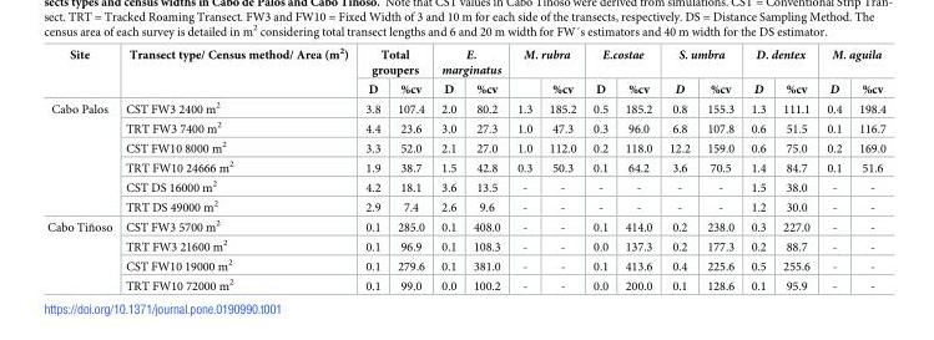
<table><thead><tr><td rowspan="2">Site</td><td rowspan="2">Transect type/ Census method/ Area (m<sup>2</sup>)</td><td colspan="2">Total groupers</td><td colspan="2">E. marginatus</td><td colspan="2">M. rubra</td><td colspan="2">E.costae</td><td colspan="2">S. umbra</td><td colspan="2">D. dentex</td><td colspan="2">M. aguila</td></tr><tr><td>D</td><td>%cv</td><td>D</td><td>%cv</td><td></td><td>%cv</td><td>D</td><td>%cv</td><td>D</td><td>%cv</td><td>D</td><td>%cv</td><td>D</td><td>%cv</td></tr></thead><tbody><tr><td rowspan="6">Cabo Palos</td><td>CST FW3 2400 m<sup>2</sup></td><td>3.8</td><td>107.4</td><td>2.0</td><td>80.2</td><td>1.3</td><td>185.2</td><td>0.5</td><td>185.2</td><td>0.8</td><td>155.3</td><td>1.3</td><td>111.1</td><td>0.4</td><td>198.4</td></tr><tr><td>TRT FW3 7400 m<sup>2</sup></td><td>4.4</td><td>23.6</td><td>3.0</td><td>27.3</td><td>1.0</td><td>47.3</td><td>0.3</td><td>96.0</td><td>6.8</td><td>107.8</td><td>0.6</td><td>51.5</td><td>0.1</td><td>116.7</td></tr><tr><td>CST FW10 8000 m<sup>2</sup></td><td>3.3</td><td>52.0</td><td>2.1</td><td>27.0</td><td>1.0</td><td>112.0</td><td>0.2</td><td>118.0</td><td>12.2</td><td>159.0</td><td>0.6</td><td>75.0</td><td>0.2</td><td>169.0</td></tr><tr><td>TRT FW10 24666 m<sup>2</sup></td><td>1.9</td><td>38.7</td><td>1.5</td><td>42.8</td><td>0.3</td><td>50.3</td><td>0.1</td><td>64.2</td><td>3.6</td><td>70.5</td><td>1.4</td><td>84.7</td><td>0.1</td><td>51.6</td></tr><tr><td>CST DS 16000 m<sup>2</sup></td><td>4.2</td><td>18.1</td><td>3.6</td><td>13.5</td><td>-</td><td>-</td><td>-</td><td>-</td><td>-</td><td>-</td><td>1.5</td><td>38.0</td><td>-</td><td>-</td></tr><tr><td>TRT DS 49000 m<sup>2</sup></td><td>2.9</td><td>7.4</td><td>2.6</td><td>9.6</td><td>-</td><td>-</td><td>-</td><td>-</td><td>-</td><td>-</td><td>1.2</td><td>30.0</td><td>-</td><td>-</td></tr><tr><td rowspan="4">Cabo Tiñoso</td><td>CST FW3 5700 m<sup>2</sup></td><td>0.1</td><td>285.0</td><td>0.1</td><td>408.0</td><td>-</td><td>-</td><td>0.1</td><td>414.0</td><td>0.2</td><td>238.0</td><td>0.3</td><td>227.0</td><td>-</td><td>-</td></tr><tr><td>TRT FW3 21600 m<sup>2</sup></td><td>0.1</td><td>96.9</td><td>0.1</td><td>108.3</td><td>-</td><td>-</td><td>0.0</td><td>137.3</td><td>0.2</td><td>177.3</td><td>0.2</td><td>88.7</td><td>-</td><td>-</td></tr><tr><td>CST FW10 19000 m<sup>2</sup></td><td>0.1</td><td>279.6</td><td>0.1</td><td>381.0</td><td>-</td><td>-</td><td>0.1</td><td>413.6</td><td>0.4</td><td>225.6</td><td>0.5</td><td>255.6</td><td>-</td><td>-</td></tr><tr><td>TRT FW10 72000 m<sup>2</sup></td><td>0.1</td><td>99.0</td><td>0.0</td><td>100.2</td><td>-</td><td>-</td><td>0.0</td><td>200.0</td><td>0.1</td><td>128.6</td><td>0.1</td><td>95.9</td><td>-</td><td>-</td></tr></tbody></table>